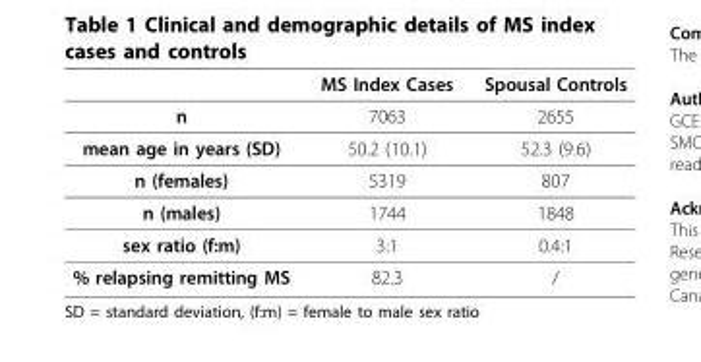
<table><thead><tr><td></td><td>MS Index Cases</td><td>Spousal Controls</td></tr></thead><tbody><tr><td>n</td><td>7063</td><td>2655</td></tr><tr><td>mean age in years (SD)</td><td>50.2 (10.1)</td><td>52.3 (9.6)</td></tr><tr><td>n (females)</td><td>5319</td><td>807</td></tr><tr><td>n (males)</td><td>1744</td><td>1848</td></tr><tr><td>sex ratio (f:m)</td><td>3:1</td><td>0.4:1</td></tr><tr><td>% relapsing remitting MS</td><td>82.3</td><td>/</td></tr></tbody></table>